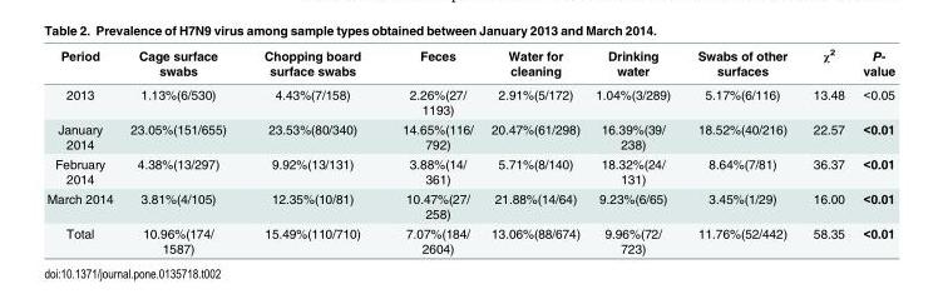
<table><thead><tr><td>Period</td><td>Cage surface swabs</td><td>Chopping board surface swabs</td><td>Feces</td><td>Water for cleaning</td><td>Drinking water</td><td>Swabs of other surfaces</td><td>χ<sup>2</sup></td><td>P- value</td></tr></thead><tbody><tr><td>2013</td><td>1.13%(6/530)</td><td>4.43%(7/158)</td><td>2.26%(27/ 1193)</td><td>2.91%(5/172)</td><td>1.04%(3/289)</td><td>5.17%(6/116)</td><td>13.48</td><td>&lt;0.05</td></tr><tr><td>January 2014</td><td>23.05%(151/655)</td><td>23.53%(80/340)</td><td>14.65%(116/ 792)</td><td>20.47%(61/298)</td><td>16.39%(39/ 238)</td><td>18.52%(40/216)</td><td>22.57</td><td>&lt;0.01</td></tr><tr><td>February 2014</td><td>4.38%(13/297)</td><td>9.92%(13/131)</td><td>3.88%(14/ 361)</td><td>5.71%(8/140)</td><td>18.32%(24/ 131)</td><td>8.64%(7/81)</td><td>36.37</td><td>&lt;0.01</td></tr><tr><td>March 2014</td><td>3.81%(4/105)</td><td>12.35%(10/81)</td><td>10.47%(27/ 258)</td><td>21.88%(14/64)</td><td>9.23%(6/65)</td><td>3.45%(1/29)</td><td>16.00</td><td>&lt;0.01</td></tr><tr><td>Total</td><td>10.96%(174/ 1587)</td><td>15.49%(110/710)</td><td>7.07%(184/ 2604)</td><td>13.06%(88/674)</td><td>9.96%(72/ 723)</td><td>11.76%(52/442)</td><td>58.35</td><td>&lt;0.01</td></tr></tbody></table>